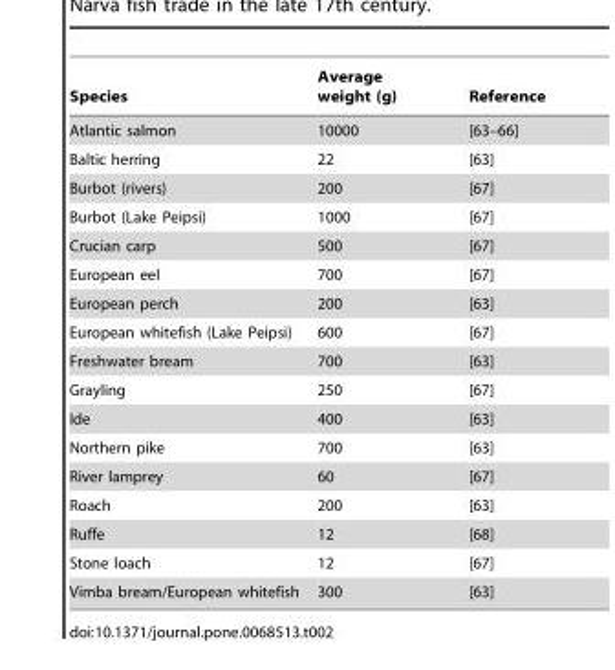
<table><thead><tr><td>Species</td><td>Average weight (g)</td><td>Reference</td></tr></thead><tbody><tr><td>Atlantic salmon</td><td>10000</td><td>[63–66]</td></tr><tr><td>Baltic herring</td><td>22</td><td>[63]</td></tr><tr><td>Burbot (rivers)</td><td>200</td><td>[67]</td></tr><tr><td>Burbot (Lake Peipsi)</td><td>1000</td><td>[67]</td></tr><tr><td>Crucian carp</td><td>500</td><td>[67]</td></tr><tr><td>European eel</td><td>700</td><td>[67]</td></tr><tr><td>European perch</td><td>200</td><td>[63]</td></tr><tr><td>European whitefish (Lake Peipsi)</td><td>600</td><td>[67]</td></tr><tr><td>Freshwater bream</td><td>700</td><td>[63]</td></tr><tr><td>Grayling</td><td>250</td><td>[67]</td></tr><tr><td>Ide</td><td>400</td><td>[63]</td></tr><tr><td>Northern pike</td><td>700</td><td>[63]</td></tr><tr><td>River lamprey</td><td>60</td><td>[67]</td></tr><tr><td>Roach</td><td>200</td><td>[63]</td></tr><tr><td>Ruffe</td><td>12</td><td>[68]</td></tr><tr><td>Stone loach</td><td>12</td><td>[67]</td></tr><tr><td>Vimba bream/European whitefish</td><td>300</td><td>[63]</td></tr></tbody></table>